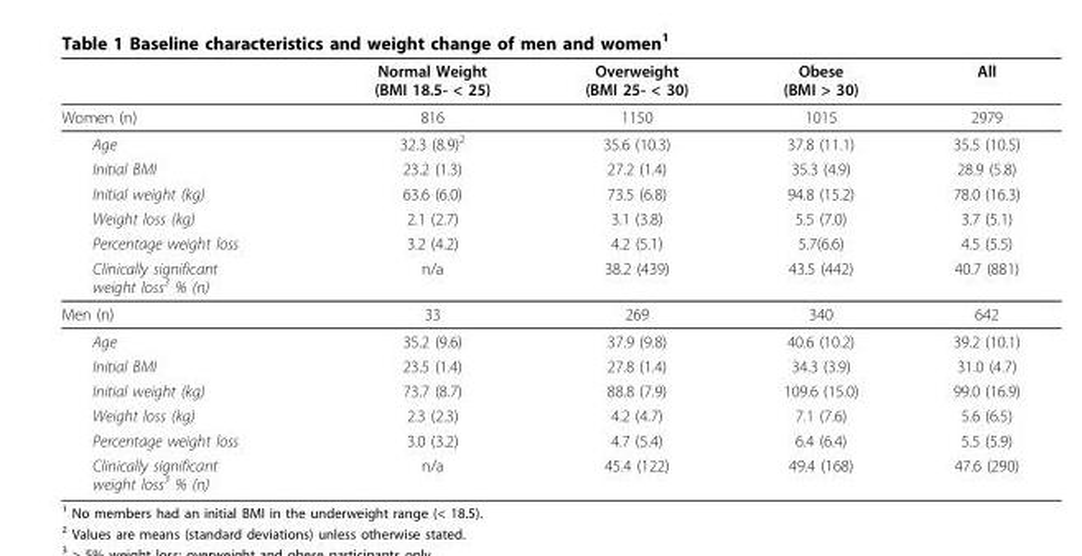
<table><thead><tr><td></td><td>Normal Weight (BMI 18.5- &lt; 25)</td><td>Overweight (BMI 25- &lt; 30)</td><td>Obese (BMI &gt; 30)</td><td>All</td></tr></thead><tbody><tr><td>Women (n)</td><td>816</td><td>1150</td><td>1015</td><td>2979</td></tr><tr><td>Age</td><td>32.3 (8.9)<sup>2</sup></td><td>35.6 (10.3)</td><td>37.8 (11.1)</td><td>35.5 (10.5)</td></tr><tr><td>Initial BMI</td><td>23.2 (1.3)</td><td>27.2 (1.4)</td><td>35.3 (4.9)</td><td>28.9 (5.8)</td></tr><tr><td>Initial weight (kg)</td><td>63.6 (6.0)</td><td>73.5 (6.8)</td><td>94.8 (15.2)</td><td>78.0 (16.3)</td></tr><tr><td>Weight loss (kg)</td><td>2.1 (2.7)</td><td>3.1 (3.8)</td><td>5.5 (7.0)</td><td>3.7 (5.1)</td></tr><tr><td>Percentage weight loss</td><td>3.2 (4.2)</td><td>4.2 (5.1)</td><td>5.7(6.6)</td><td>4.5 (5.5)</td></tr><tr><td>Clinically significant weight loss<sup>3</sup> % (n)</td><td>n/a</td><td>38.2 (439)</td><td>43.5 (442)</td><td>40.7 (881)</td></tr><tr><td>Men (n)</td><td>33</td><td>269</td><td>340</td><td>642</td></tr><tr><td>Age</td><td>35.2 (9.6)</td><td>37.9 (9.8)</td><td>40.6 (10.2)</td><td>39.2 (10.1)</td></tr><tr><td>Initial BMI</td><td>23.5 (1.4)</td><td>27.8 (1.4)</td><td>34.3 (3.9)</td><td>31.0 (4.7)</td></tr><tr><td>Initial weight (kg)</td><td>73.7 (8.7)</td><td>88.8 (7.9)</td><td>109.6 (15.0)</td><td>99.0 (16.9)</td></tr><tr><td>Weight loss (kg)</td><td>2.3 (2.3)</td><td>4.2 (4.7)</td><td>7.1 (7.6)</td><td>5.6 (6.5)</td></tr><tr><td>Percentage weight loss</td><td>3.0 (3.2)</td><td>4.7 (5.4)</td><td>6.4 (6.4)</td><td>5.5 (5.9)</td></tr><tr><td>Clinically significant weight loss<sup>3</sup> % (n)</td><td>n/a</td><td>45.4 (122)</td><td>49.4 (168)</td><td>47.6 (290)</td></tr></tbody></table>